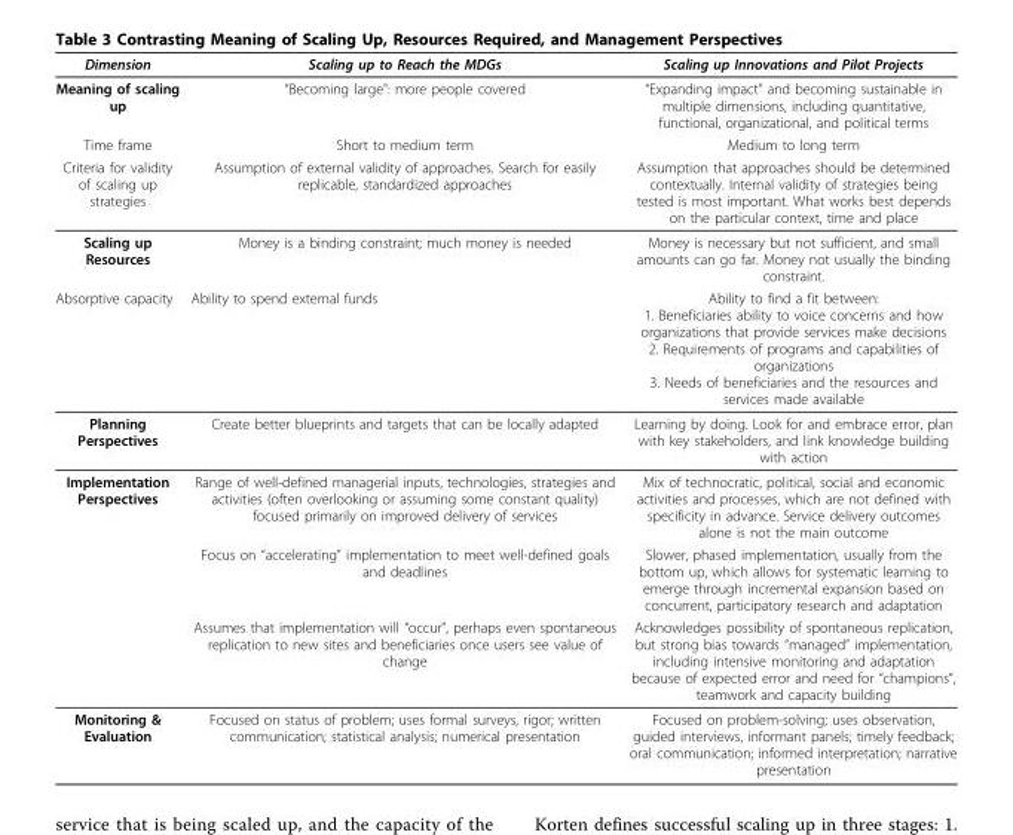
<table><thead><tr><td>Dimension</td><td>Scaling up to Reach the MDGs</td><td>Scaling up Innovations and Pilot Projects</td></tr></thead><tbody><tr><td>Meaning of scaling up</td><td>“Becoming large&quot;: more people covered</td><td>“Expanding impact” and becoming sustainable in multiple dimensions, including quantitative, functional, organizational, and political terms</td></tr><tr><td>Time frame</td><td>Short to medium term</td><td>Medium to long term</td></tr><tr><td>Criteria for validity of scaling up strategies</td><td>Assumption of external validity of approaches. Search for easily replicable, standardized approaches</td><td>Assumption that approaches should be determined contextually. Internal validity of strategies being tested is most important. What works best depends on the particular context, time and place</td></tr><tr><td>Scaling up Resources</td><td>Money is a binding constraint; much money is needed</td><td>Money is necessary but not sufficient, and small amounts can go far. Money not usually the binding constraint.</td></tr><tr><td>Absorptive capacity</td><td>Ability to spend external funds</td><td>Ability to find a fit between: 1. Beneficiaries ability to voice concerns and how organizations that provide services make decisions 2. Requirements of programs and capabilities of organizations 3. Needs of beneficiaries and the resources and services made available</td></tr><tr><td>Planning Perspectives</td><td>Create better blueprints and targets that can be locally adapted</td><td>Learning by doing. Look for and embrace error, plan with key stakeholders, and link knowledge building with action</td></tr><tr><td rowspan="3">Implementation Perspectives</td><td>Range of well-defined managerial inputs, technologies, strategies and activities (often overlooking or assuming some constant quality) focused primarily on improved delivery of services</td><td>Mix of technocratic, political, social and economic activities and processes, which are not defined with specificity in advance. Service delivery outcomes alone is not the main outcome</td></tr><tr><td>Focus on “accelerating” implementation to meet well-defined goals and deadlines</td><td>Slower, phased implementation, usually from the bottom up, which allows for systematic learning to emerge through incremental expansion based on concurrent, participatory research and adaptation</td></tr><tr><td>Assumes that implementation will “occur”, perhaps even spontaneous replication to new sites and beneficiaries once users see value of change</td><td>Acknowledges possibility of spontaneous replication, but strong bias towards “managed” implementation, including intensive monitoring and adaptation because of expected error and need for “champions”, teamwork and capacity building</td></tr><tr><td>Monitoring &amp; Evaluation</td><td>Focused on status of problem; uses formal surveys, rigor; written communication; statistical analysis; numerical presentation</td><td>Focused on problem-solving; uses observation, guided interviews, informant panels; timely feedback; oral communication; informed interpretation; narrative presentation</td></tr></tbody></table>